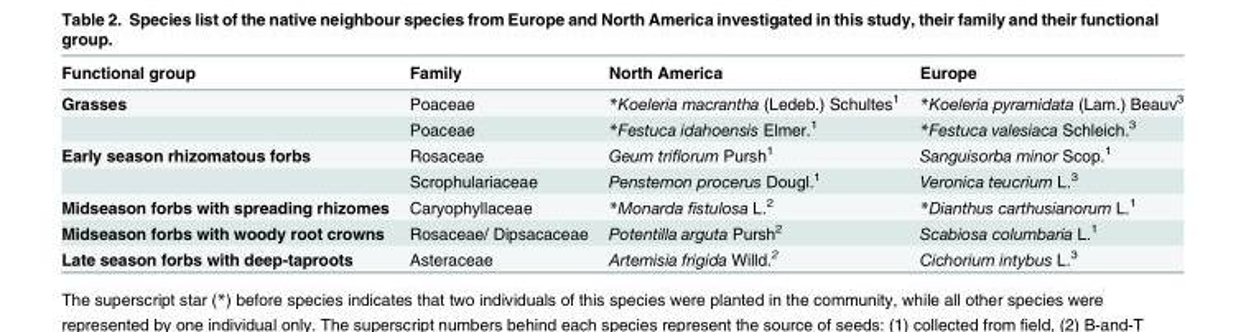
<table><thead><tr><td>Functional group</td><td>Family</td><td>North America</td><td>Europe</td></tr></thead><tbody><tr><td rowspan="2">Grasses</td><td>Poaceae</td><td>*Koeleria macrantha (Ledeb.) Schultes<sup>1</sup></td><td>*Koeleria pyramidata (Lam.) Beauv<sup>3</sup></td></tr><tr><td>Poaceae</td><td>*Festuca idahoensis Elmer.<sup>1</sup></td><td>*Festuca valesiaca Schleich.<sup>3</sup></td></tr><tr><td rowspan="2">Early season rhizomatous forbs</td><td>Rosaceae</td><td>Geum triflorum Pursh<sup>1</sup></td><td>Sanguisorba minor Scop.<sup>1</sup></td></tr><tr><td>Scrophulariaceae</td><td>Penstemon procerus Dougl.<sup>1</sup></td><td>Veronica teucrium L.<sup>3</sup></td></tr><tr><td>Midseason forbs with spreading rhizomes</td><td>Caryophyllaceae</td><td>*Monarda fistulosa L.<sup>2</sup></td><td>*Dianthus carthusianorum L.<sup>1</sup></td></tr><tr><td>Midseason forbs with woody root crowns</td><td>Rosaceae/ Dipsacaceae</td><td>Potentilla arguta Pursh<sup>2</sup></td><td>Scabiosa columbaria L.<sup>1</sup></td></tr><tr><td>Late season forbs with deep-taproots</td><td>Asteraceae</td><td>Artemisia frigida Willd.<sup>2</sup></td><td>Cichorium intybus L.<sup>3</sup></td></tr></tbody></table>